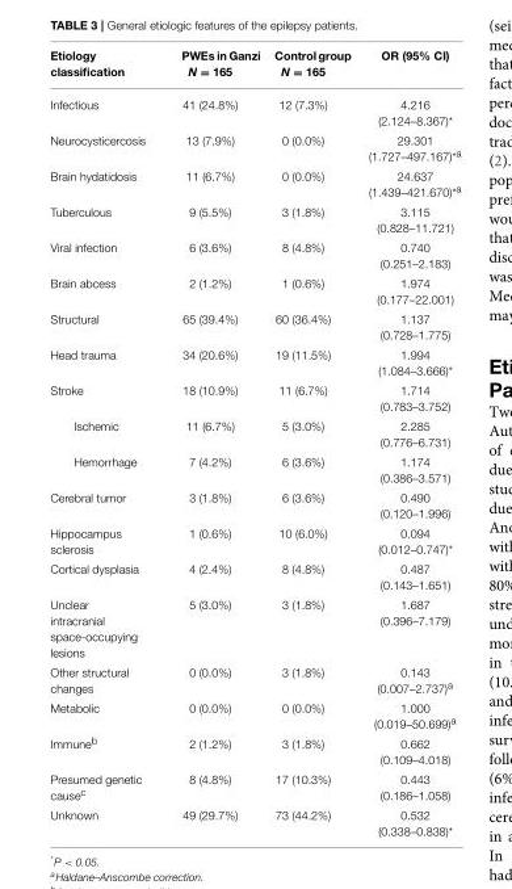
<table><thead><tr><td>Etiology classification</td><td>PWEs in Ganzi N = 165</td><td>Control group N = 165</td><td>OR (95% CI)</td></tr></thead><tbody><tr><td>Infectious</td><td>41 (24.8%)</td><td>12 (7.3%)</td><td>4.216 (2.124–8.367)*</td></tr><tr><td>Neurocysticercosis</td><td>13 (7.9%)</td><td>0 (0.0%)</td><td>29.301 (1.727–497.167)<sup>*a</sup></td></tr><tr><td>Brain hydatidosis</td><td>11 (6.7%)</td><td>0 (0.0%)</td><td>24.637 (1.439–421.670)<sup>*a</sup></td></tr><tr><td>Tuberculous</td><td>9 (5.5%)</td><td>3 (1.8%)</td><td>3.115 (0.828–11.721)</td></tr><tr><td>Viral infection</td><td>6 (3.6%)</td><td>8 (4.8%)</td><td>0.740 (0.251–2.183)</td></tr><tr><td>Brain abcess</td><td>2 (1.2%)</td><td>1 (0.6%)</td><td>1.974 (0.177–22.001)</td></tr><tr><td>Structural</td><td>65 (39.4%)</td><td>60 (36.4%)</td><td>1.137 (0.728–1.775)</td></tr><tr><td>Head trauma</td><td>34 (20.6%)</td><td>19 (11.5%)</td><td>1.994 (1.084–3.666)*</td></tr><tr><td>Stroke</td><td>18 (10.9%)</td><td>11 (6.7%)</td><td>1.714 (0.783–3.752)</td></tr><tr><td>Ischemic</td><td>11 (6.7%)</td><td>5 (3.0%)</td><td>2.285 (0.776–6.731)</td></tr><tr><td>Hemorrhage</td><td>7 (4.2%)</td><td>6 (3.6%)</td><td>1.174 (0.386–3.571)</td></tr><tr><td>Cerebral tumor</td><td>3 (1.8%)</td><td>6 (3.6%)</td><td>0.490 (0.120–1.996)</td></tr><tr><td>Hippocampus sclerosis</td><td>1 (0.6%)</td><td>10 (6.0%)</td><td>0.094 (0.012–0.747)*</td></tr><tr><td>Cortical dysplasia</td><td>4 (2.4%)</td><td>8 (4.8%)</td><td>0.487 (0.143–1.651)</td></tr><tr><td>Unclear intracranial space-occupying lesions</td><td>5 (3.0%)</td><td>3 (1.8%)</td><td>1.687 (0.396–7.179)</td></tr><tr><td>Other structural changes</td><td>0 (0.0%)</td><td>3 (1.8%)</td><td>0.143 (0.007–2.737)<sup>a</sup></td></tr><tr><td>Metabolic</td><td>0 (0.0%)</td><td>0 (0.0%)</td><td>1.000 (0.019–50.699)<sup>a</sup></td></tr><tr><td>Immune<sup>b</sup></td><td>2 (1.2%)</td><td>3 (1.8%)</td><td>0.662 (0.109–4.018)</td></tr><tr><td>Presumed genetic cause<sup>c</sup></td><td>8 (4.8%)</td><td>17 (10.3%)</td><td>0.443 (0.186–1.058)</td></tr><tr><td>Unknown</td><td>49 (29.7%)</td><td>73 (44.2%)</td><td>0.532 (0.338–0.838)*</td></tr></tbody></table>